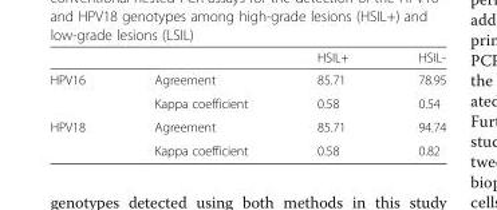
<table><thead><tr><td></td><td></td><td>HSIL+</td><td>HSIL-</td></tr></thead><tbody><tr><td rowspan="2">HPV16</td><td>Agreement</td><td>85.71</td><td>78.95</td></tr><tr><td>Kappa coefficient</td><td>0.58</td><td>0.54</td></tr><tr><td rowspan="2">HPV18</td><td>Agreement</td><td>85.71</td><td>94.74</td></tr><tr><td>Kappa coefficient</td><td>0.58</td><td>0.82</td></tr></tbody></table>